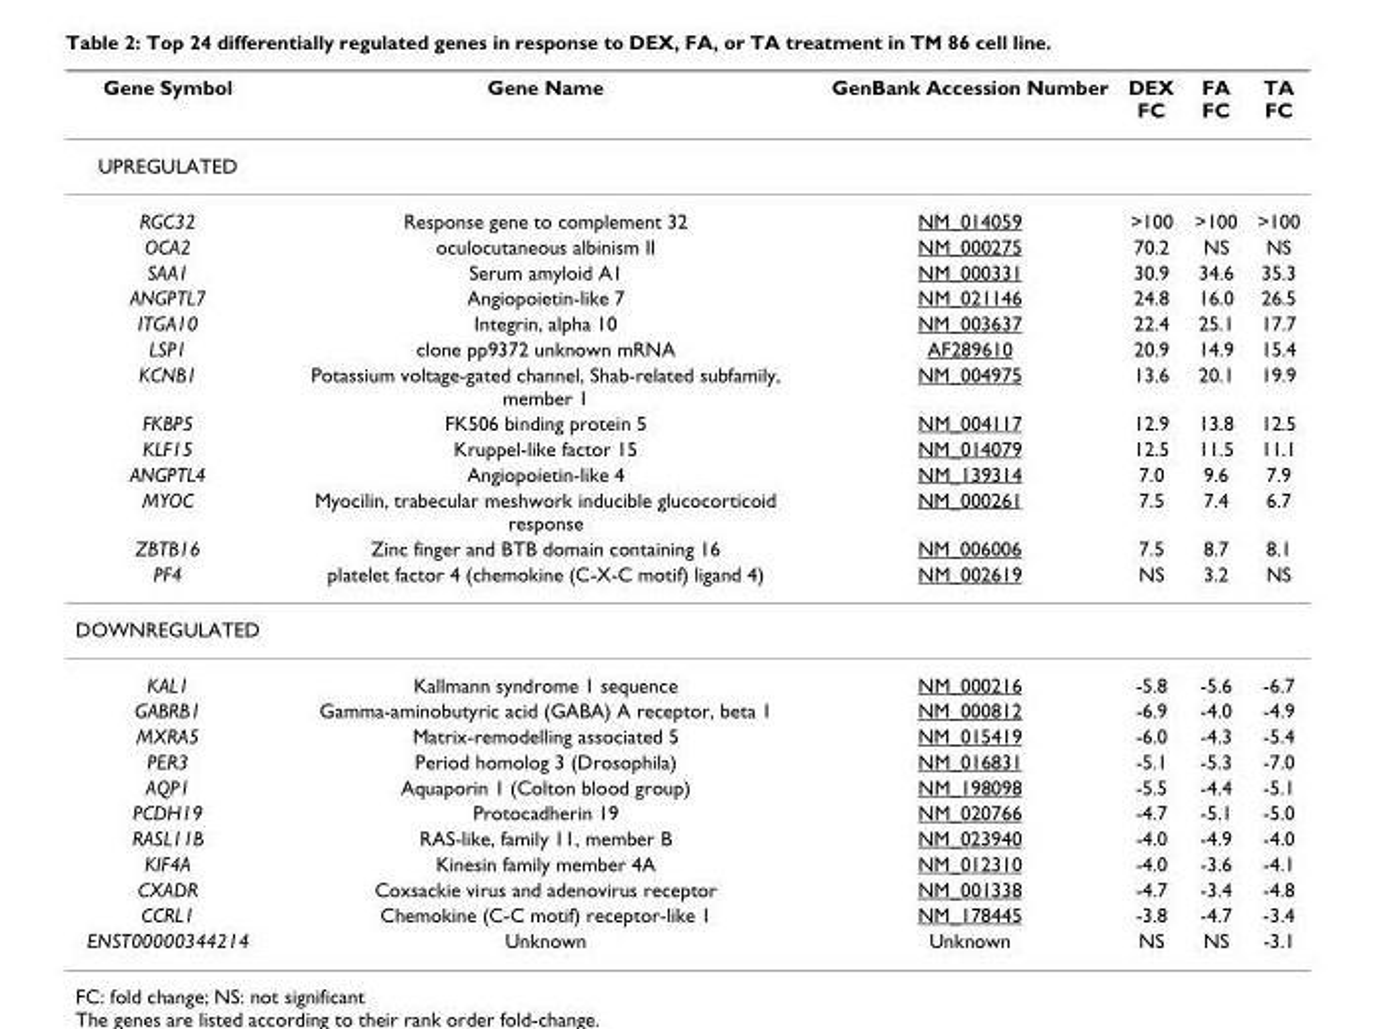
<table><thead><tr><td>Gene Symbol</td><td>Gene Name</td><td>GenBank Accession Number</td><td>DEX FC</td><td>FA FC</td><td>TA FC</td></tr></thead><tbody><tr><td colspan="6">UPREGULATED</td></tr><tr><td>RGC32</td><td>Response gene to complement 32</td><td>NM_014059</td><td>&gt;100</td><td>&gt;100</td><td>&gt;100</td></tr><tr><td>OCA2</td><td>oculocutaneous albinism II</td><td>NM_000275</td><td>70.2</td><td>NS</td><td>NS</td></tr><tr><td>SAA1</td><td>Serum amyloid A1</td><td>NM_000331</td><td>30.9</td><td>34.6</td><td>35.3</td></tr><tr><td>ANGPTL7</td><td>Angiopoietin-like 7</td><td>NM_021146</td><td>24.8</td><td>16.0</td><td>26.5</td></tr><tr><td>ITGA10</td><td>Integrin, alpha 10</td><td>NM_003637</td><td>22.4</td><td>25.1</td><td>17.7</td></tr><tr><td>LSP1</td><td>clone pp9372 unknown mRNA</td><td>AF289610</td><td>20.9</td><td>14.9</td><td>15.4</td></tr><tr><td>KCNB1</td><td>Potassium voltage-gated channel, Shab-related subfamily, member 1</td><td>NM_004975</td><td>13.6</td><td>20.1</td><td>19.9</td></tr><tr><td>FKBP5</td><td>FK506 binding protein 5</td><td>NM_004117</td><td>12.9</td><td>13.8</td><td>12.5</td></tr><tr><td>KLF15</td><td>Kruppel-like factor 15</td><td>NM_014079</td><td>12.5</td><td>11.5</td><td>11.1</td></tr><tr><td>ANGPTL4</td><td>Angiopoietin-like 4</td><td>NM_139314</td><td>7.0</td><td>9.6</td><td>7.9</td></tr><tr><td>MYOC</td><td>Myocilin, trabecular meshwork inducible glucocorticoid response</td><td>NM_000261</td><td>7.5</td><td>7.4</td><td>6.7</td></tr><tr><td>ZBTB16</td><td>Zinc finger and BTB domain containing 16</td><td>NM_006006</td><td>7.5</td><td>8.7</td><td>8.1</td></tr><tr><td>PF4</td><td>platelet factor 4 (chemokine (C-X-C motif) ligand 4)</td><td>NM_002619</td><td>NS</td><td>3.2</td><td>NS</td></tr><tr><td colspan="6">DOWNREGULATED</td></tr><tr><td>KAL1</td><td>Kallmann syndrome 1 sequence</td><td>NM_000216</td><td>-5.8</td><td>-5.6</td><td>-6.7</td></tr><tr><td>GABRB1</td><td>Gamma-aminobutyric acid (GABA) A receptor, beta 1</td><td>NM_000812</td><td>-6.9</td><td>-4.0</td><td>-4.9</td></tr><tr><td>MXRA5</td><td>Matrix-remodelling associated 5</td><td>NM_015419</td><td>-6.0</td><td>-4.3</td><td>-5.4</td></tr><tr><td>PER3</td><td>Period homolog 3 (Drosophila)</td><td>NM_016831</td><td>-5.1</td><td>-5.3</td><td>-7.0</td></tr><tr><td>AQP1</td><td>Aquaporin 1 (Colton blood group)</td><td>NM_198098</td><td>-5.5</td><td>-4.4</td><td>-5.1</td></tr><tr><td>PCDH19</td><td>Protocadherin 19</td><td>NM_020766</td><td>-4.7</td><td>-5.1</td><td>-5.0</td></tr><tr><td>RASL11B</td><td>RAS-like, family 11, member B</td><td>NM_023940</td><td>-4.0</td><td>-4.9</td><td>-4.0</td></tr><tr><td>KIF4A</td><td>Kinesin family member 4A</td><td>NM_012310</td><td>-4.0</td><td>-3.6</td><td>-4.1</td></tr><tr><td>CXADR</td><td>Coxsackie virus and adenovirus receptor</td><td>NM_001338</td><td>-4.7</td><td>-3.4</td><td>-4.8</td></tr><tr><td>CCRL1</td><td>Chemokine (C-C motif) receptor-like 1</td><td>NM_178445</td><td>-3.8</td><td>-4.7</td><td>-3.4</td></tr><tr><td>ENST00000344214</td><td>Unknown</td><td>Unknown</td><td>NS</td><td>NS</td><td>-3.1</td></tr></tbody></table>